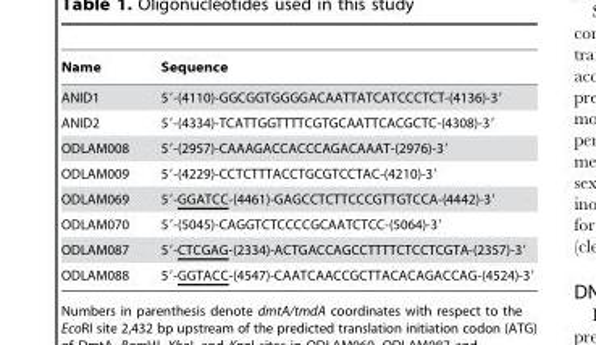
<table><thead><tr><td>Name</td><td>Sequence</td></tr></thead><tbody><tr><td>ANID1</td><td>5′-(4110)-GGCGGTGGGGACAATTATCATCCCTCT-(4136)-3′</td></tr><tr><td>ANID2</td><td>5′-(4334)-TCATTGGTTTTCGTGCAATTCACGCTC-(4308)-3′</td></tr><tr><td>ODLAM008</td><td>5′-(2957)-CAAAGACCACCCAGACAAAT-(2976)-3′</td></tr><tr><td>ODLAM009</td><td>5′-(4229)-CCTCTTTACCTGCGTCCTAC-(4210)-3′</td></tr><tr><td>ODLAM069</td><td>5′-GGATCC-(4461)-GAGCCTCTTCCCGTTGTCCA-(4442)-3′</td></tr><tr><td>ODLAM070</td><td>5′-(5045)-CAGGTCTCCCCGCAATCTCC-(5064)-3′</td></tr><tr><td>ODLAM087</td><td>5′-CTCGAG-(2334)-ACTGACCAGCCTTTTCTCCTCGTA-(2357)-3′</td></tr><tr><td>ODLAM088</td><td>5′-GGTACC-(4547)-CAATCAACCGCTTACACAGACCAG-(4524)-3′</td></tr></tbody></table>